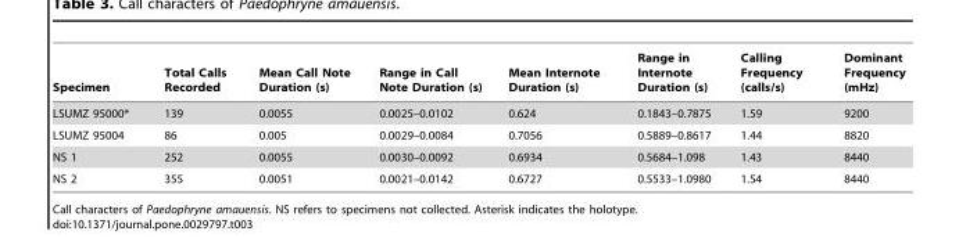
<table><thead><tr><td>Specimen</td><td>Total Calls Recorded</td><td>Mean Call Note Duration (s)</td><td>Range in Call Note Duration (s)</td><td>Mean Internote Duration (s)</td><td>Range in Internote Duration (s)</td><td>Calling Frequency (calls/s)</td><td>Dominant Frequency (mHz)</td></tr></thead><tbody><tr><td>LSUMZ 95000*</td><td>139</td><td>0.0055</td><td>0.0025–0.0102</td><td>0.624</td><td>0.1843–0.7875</td><td>1.59</td><td>9200</td></tr><tr><td>LSUMZ 95004</td><td>86</td><td>0.005</td><td>0.0029–0.0084</td><td>0.7056</td><td>0.5889–0.8617</td><td>1.44</td><td>8820</td></tr><tr><td>NS 1</td><td>252</td><td>0.0055</td><td>0.0030–0.0092</td><td>0.6934</td><td>0.5684–1.098</td><td>1.43</td><td>8440</td></tr><tr><td>NS 2</td><td>355</td><td>0.0051</td><td>0.0021–0.0142</td><td>0.6727</td><td>0.5533–1.0980</td><td>1.54</td><td>8440</td></tr></tbody></table>